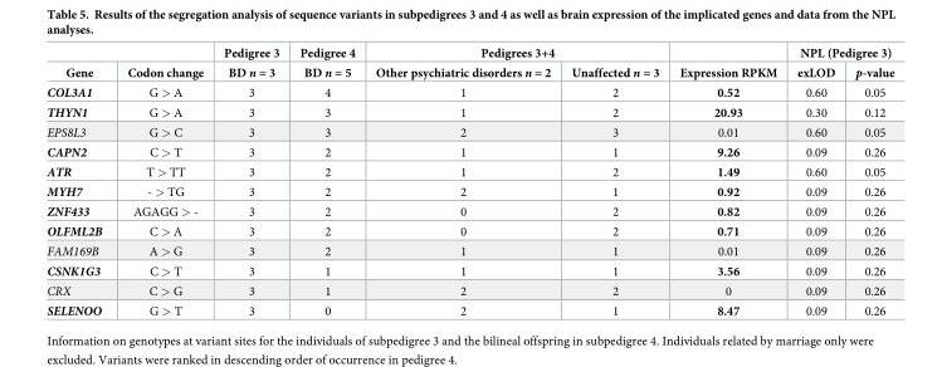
<table><thead><tr><td rowspan="2">Gene</td><td rowspan="2">Codon change</td><td rowspan="2">Pedigree 3 BD n = 3</td><td rowspan="2">Pedigree 4 BD n = 5</td><td colspan="2">Pedigrees 3+4</td><td rowspan="2">Expression RPKM</td><td colspan="2">NPL (Pedigree 3)</td></tr><tr><td>Other psychiatric disorders n = 2</td><td>Unaffected n = 3</td><td>exLOD</td><td>p-value</td></tr></thead><tbody><tr><td>COL3A1</td><td>G &gt; A</td><td>3</td><td>4</td><td>1</td><td>2</td><td>0.52</td><td>0.60</td><td>0.05</td></tr><tr><td>THYN1</td><td>G &gt; A</td><td>3</td><td>3</td><td>1</td><td>2</td><td>20.93</td><td>0.30</td><td>0.12</td></tr><tr><td>EPS8L3</td><td>G &gt; C</td><td>3</td><td>3</td><td>2</td><td>3</td><td>0.01</td><td>0.60</td><td>0.05</td></tr><tr><td>CAPN2</td><td>C &gt; T</td><td>3</td><td>2</td><td>1</td><td>1</td><td>9.26</td><td>0.09</td><td>0.26</td></tr><tr><td>ATR</td><td>T &gt; TT</td><td>3</td><td>2</td><td>1</td><td>2</td><td>1.49</td><td>0.60</td><td>0.05</td></tr><tr><td>MYH7</td><td>- &gt; TG</td><td>3</td><td>2</td><td>2</td><td>1</td><td>0.92</td><td>0.09</td><td>0.26</td></tr><tr><td>ZNF433</td><td>AGAGG &gt; -</td><td>3</td><td>2</td><td>0</td><td>2</td><td>0.82</td><td>0.09</td><td>0.26</td></tr><tr><td>OLFML2B</td><td>C &gt; A</td><td>3</td><td>2</td><td>0</td><td>2</td><td>0.71</td><td>0.09</td><td>0.26</td></tr><tr><td>FAM169B</td><td>A &gt; G</td><td>3</td><td>2</td><td>1</td><td>1</td><td>0.01</td><td>0.09</td><td>0.26</td></tr><tr><td>CSNK1G3</td><td>C &gt; T</td><td>3</td><td>1</td><td>1</td><td>1</td><td>3.56</td><td>0.09</td><td>0.26</td></tr><tr><td>CRX</td><td>C &gt; G</td><td>3</td><td>1</td><td>2</td><td>2</td><td>0</td><td>0.09</td><td>0.26</td></tr><tr><td>SELENOO</td><td>G &gt; T</td><td>3</td><td>0</td><td>2</td><td>1</td><td>8.47</td><td>0.09</td><td>0.26</td></tr></tbody></table>